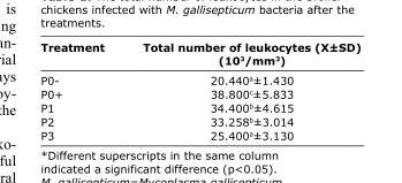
<table><thead><tr><td>Treatment</td><td>Total number of leukocytes (X±SD) (10<sup>3</sup>/mm<sup>3</sup>)</td></tr></thead><tbody><tr><td>P0-</td><td>20.440<sup>a</sup>±1.430</td></tr><tr><td>P0+</td><td>38.800<sup>c</sup>±5.833</td></tr><tr><td>P1</td><td>34.400<sup>b</sup>±4.615</td></tr><tr><td>P2</td><td>33.258<sup>b</sup>±3.014</td></tr><tr><td>P3</td><td>25.400<sup>a</sup>±3.130</td></tr></tbody></table>